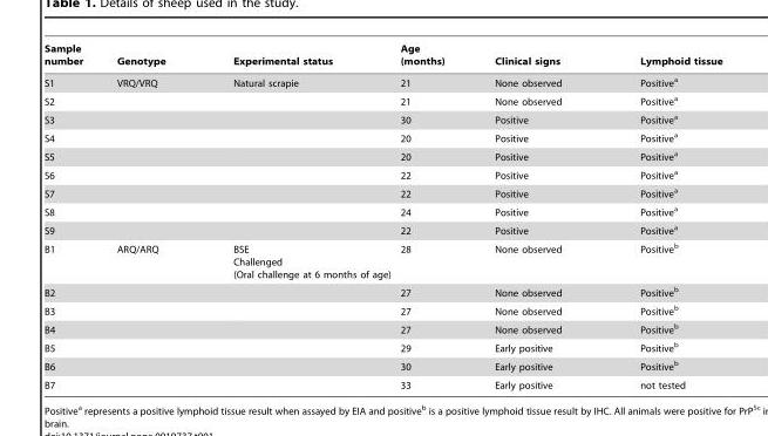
<table><thead><tr><td>Sample number</td><td>Genotype</td><td>Experimental status</td><td>Age (months)</td><td>Clinical signs</td><td>Lymphoid tissue</td></tr></thead><tbody><tr><td>S1</td><td>VRQ/VRQ</td><td>Natural scrapie</td><td>21</td><td>None observed</td><td>Positive<sup>a</sup></td></tr><tr><td>S2</td><td></td><td></td><td>21</td><td>None observed</td><td>Positive<sup>a</sup></td></tr><tr><td>S3</td><td></td><td></td><td>30</td><td>Positive</td><td>Positive<sup>a</sup></td></tr><tr><td>S4</td><td></td><td></td><td>20</td><td>Positive</td><td>Positive<sup>a</sup></td></tr><tr><td>S5</td><td></td><td></td><td>20</td><td>Positive</td><td>Positive<sup>a</sup></td></tr><tr><td>S6</td><td></td><td></td><td>22</td><td>Positive</td><td>Positive<sup>a</sup></td></tr><tr><td>S7</td><td></td><td></td><td>22</td><td>Positive</td><td>Positive<sup>a</sup></td></tr><tr><td>S8</td><td></td><td></td><td>24</td><td>Positive</td><td>Positive<sup>a</sup></td></tr><tr><td>S9</td><td></td><td></td><td>22</td><td>Positive</td><td>Positive<sup>a</sup></td></tr><tr><td>B1</td><td>ARQ/ARQ</td><td>BSE Challenged (Oral challenge at 6 months of age)</td><td>28</td><td>None observed</td><td>Positive<sup>b</sup></td></tr><tr><td>B2</td><td></td><td></td><td>27</td><td>None observed</td><td>Positive<sup>b</sup></td></tr><tr><td>B3</td><td></td><td></td><td>27</td><td>None observed</td><td>Positive<sup>b</sup></td></tr><tr><td>B4</td><td></td><td></td><td>27</td><td>None observed</td><td>Positive<sup>b</sup></td></tr><tr><td>B5</td><td></td><td></td><td>29</td><td>Early positive</td><td>Positive<sup>b</sup></td></tr><tr><td>B6</td><td></td><td></td><td>30</td><td>Early positive</td><td>Positive<sup>b</sup></td></tr><tr><td>B7</td><td></td><td></td><td>33</td><td>Early positive</td><td>not tested</td></tr></tbody></table>